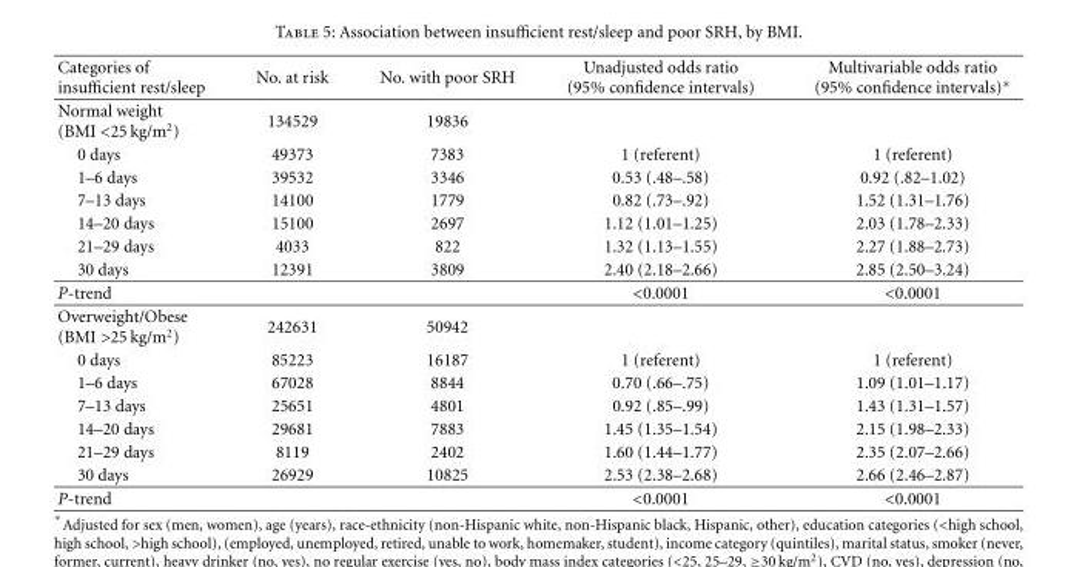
<table><thead><tr><td>Categories of insufficient rest/sleep</td><td>No. at risk</td><td>No. with poor SRH</td><td>Unadjusted odds ratio (95% confidence intervals)</td><td>Multivariable odds ratio (95% confidence intervals)∗</td></tr></thead><tbody><tr><td>Normal weight (BMI &lt;25 kg/m<sup>2</sup>)</td><td>134529</td><td>19836</td><td></td><td></td></tr><tr><td>0 days</td><td>49373</td><td>7383</td><td>1 (referent)</td><td>1 (referent)</td></tr><tr><td>1–6 days</td><td>39532</td><td>3346</td><td>0.53 (.48–.58)</td><td>0.92 (.82–1.02)</td></tr><tr><td>7–13 days</td><td>14100</td><td>1779</td><td>0.82 (.73–.92)</td><td>1.52 (1.31–1.76)</td></tr><tr><td>14–20 days</td><td>15100</td><td>2697</td><td>1.12 (1.01–1.25)</td><td>2.03 (1.78–2.33)</td></tr><tr><td>21–29 days</td><td>4033</td><td>822</td><td>1.32 (1.13–1.55)</td><td>2.27 (1.88–2.73)</td></tr><tr><td>30 days</td><td>12391</td><td>3809</td><td>2.40 (2.18–2.66)</td><td>2.85 (2.50–3.24)</td></tr><tr><td>P-trend</td><td></td><td></td><td>&lt;0.0001</td><td>&lt;0.0001</td></tr><tr><td>Overweight/Obese (BMI &gt;25 kg/m<sup>2</sup>)</td><td>242631</td><td>50942</td><td></td><td></td></tr><tr><td>0 days</td><td>85223</td><td>16187</td><td>1 (referent)</td><td>1 (referent)</td></tr><tr><td>1–6 days</td><td>67028</td><td>8844</td><td>0.70 (.66–.75)</td><td>1.09 (1.01–1.17)</td></tr><tr><td>7–13 days</td><td>25651</td><td>4801</td><td>0.92 (.85–.99)</td><td>1.43 (1.31–1.57)</td></tr><tr><td>14–20 days</td><td>29681</td><td>7883</td><td>1.45 (1.35–1.54)</td><td>2.15 (1.98–2.33)</td></tr><tr><td>21–29 days</td><td>8119</td><td>2402</td><td>1.60 (1.44–1.77)</td><td>2.35 (2.07–2.66)</td></tr><tr><td>30 days</td><td>26929</td><td>10825</td><td>2.53 (2.38–2.68)</td><td>2.66 (2.46–2.87)</td></tr><tr><td>P-trend</td><td></td><td></td><td>&lt;0.0001</td><td>&lt;0.0001</td></tr></tbody></table>